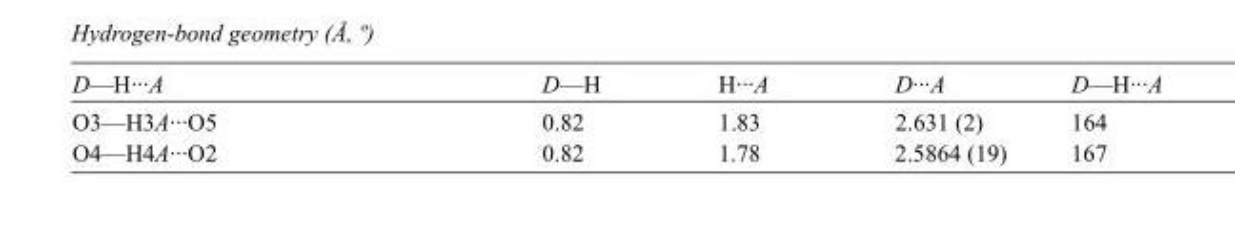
<table><tbody><tr><td>D—H···A</td><td>D—H</td><td>H···A</td><td>D···A</td><td>D—H···A</td></tr><tr><td>O3—H3A···O5</td><td>0.82</td><td>1.83</td><td>2.631 (2)</td><td>164</td></tr><tr><td>O4—H4A···O2</td><td>0.82</td><td>1.78</td><td>2.5864 (19)</td><td>167</td></tr></tbody></table>